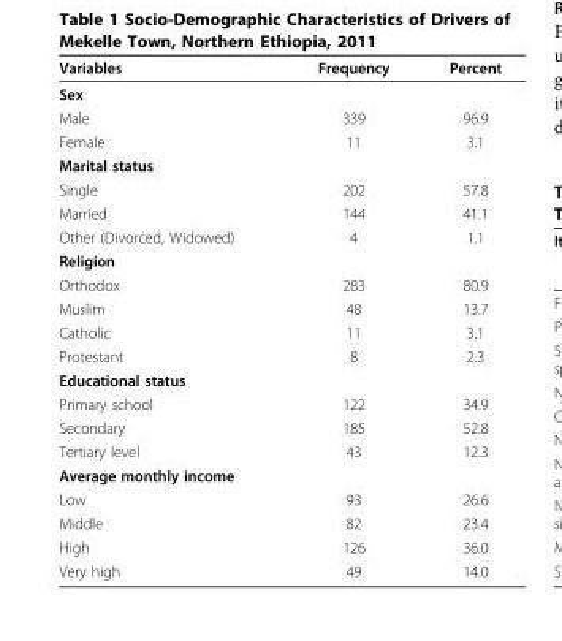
<table><thead><tr><td>Variables</td><td>Frequency</td><td>Percent</td></tr></thead><tbody><tr><td colspan="3">Sex</td></tr><tr><td>Male</td><td>339</td><td>96.9</td></tr><tr><td>Female</td><td>11</td><td>3.1</td></tr><tr><td colspan="3">Marital status</td></tr><tr><td>Single</td><td>202</td><td>57.8</td></tr><tr><td>Married</td><td>144</td><td>41.1</td></tr><tr><td>Other (Divorced, Widowed)</td><td>4</td><td>1.1</td></tr><tr><td colspan="3">Religion</td></tr><tr><td>Orthodox</td><td>283</td><td>80.9</td></tr><tr><td>Muslim</td><td>48</td><td>13.7</td></tr><tr><td>Catholic</td><td>11</td><td>3.1</td></tr><tr><td>Protestant</td><td>8</td><td>2.3</td></tr><tr><td colspan="3">Educational status</td></tr><tr><td>Primary school</td><td>122</td><td>34.9</td></tr><tr><td>Secondary</td><td>185</td><td>52.8</td></tr><tr><td>Tertiary level</td><td>43</td><td>12.3</td></tr><tr><td colspan="3">Average monthly income</td></tr><tr><td>Low</td><td>93</td><td>26.6</td></tr><tr><td>Middle</td><td>82</td><td>23.4</td></tr><tr><td>High</td><td>126</td><td>36.0</td></tr><tr><td>Very high</td><td>49</td><td>14.0</td></tr></tbody></table>